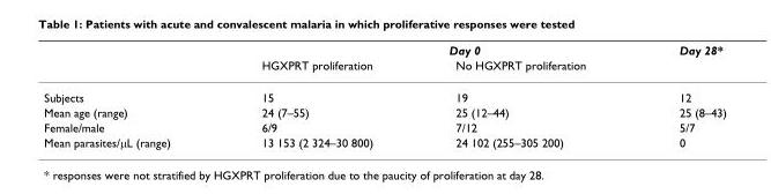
<table><thead><tr><td rowspan="2"></td><td colspan="2">Day 0</td><td rowspan="2">Day 28*</td></tr><tr><td>HGXPRT proliferation</td><td>No HGXPRT proliferation</td></tr></thead><tbody><tr><td>Subjects</td><td>15</td><td>19</td><td>12</td></tr><tr><td>Mean age (range)</td><td>24 (7–55)</td><td>25 (12–44)</td><td>25 (8–43)</td></tr><tr><td>Female/male</td><td>6/9</td><td>7/12</td><td>5/7</td></tr><tr><td>Mean parasites/μL (range)</td><td>13 153 (2 324–30 800)</td><td>24 102 (255–305 200)</td><td>0</td></tr></tbody></table>